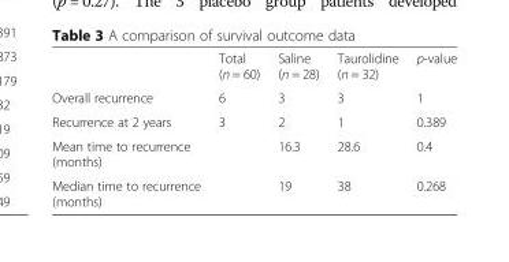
<table><thead><tr><td></td><td>Total (n = 60)</td><td>Saline (n = 28)</td><td>Taurolidine (n = 32)</td><td>p-value</td></tr></thead><tbody><tr><td>Overall recurrence</td><td>6</td><td>3</td><td>3</td><td>1</td></tr><tr><td>Recurrence at 2 years</td><td>3</td><td>2</td><td>1</td><td>0.389</td></tr><tr><td>Mean time to recurrence (months)</td><td></td><td>16.3</td><td>28.6</td><td>0.4</td></tr><tr><td>Median time to recurrence (months)</td><td></td><td>19</td><td>38</td><td>0.268</td></tr></tbody></table>